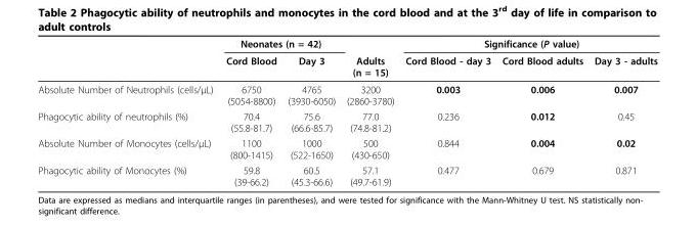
<table><thead><tr><td rowspan="2"></td><td colspan="2">Neonates (n = 42)</td><td rowspan="2">Adults (n = 15)</td><td colspan="3">Significance (P value)</td></tr><tr><td>Cord Blood</td><td>Day 3</td><td>Cord Blood - day 3</td><td>Cord Blood adults</td><td>Day 3 - adults</td></tr></thead><tbody><tr><td>Absolute Number of Neutrophils (cells/μL)</td><td>6750 (5054-8800)</td><td>4765 (3930-6050)</td><td>3200 (2860-3780)</td><td>0.003</td><td>0.006</td><td>0.007</td></tr><tr><td>Phagocytic ability of neutrophils (%)</td><td>70.4 (55.8-81.7)</td><td>75.6 (66.6-85.7)</td><td>77.0 (74.8-81.2)</td><td>0.236</td><td>0.012</td><td>0.45</td></tr><tr><td>Absolute Number of Monocytes (cells/μL)</td><td>1100 (800-1415)</td><td>1000 (522-1650)</td><td>500 (430-650)</td><td>0.844</td><td>0.004</td><td>0.02</td></tr><tr><td>Phagocytic ability of Monocytes (%)</td><td>59.8 (39-66.2)</td><td>60.5 (45.3-66.6)</td><td>57.1 (49.7-61.9)</td><td>0.477</td><td>0.679</td><td>0.871</td></tr></tbody></table>